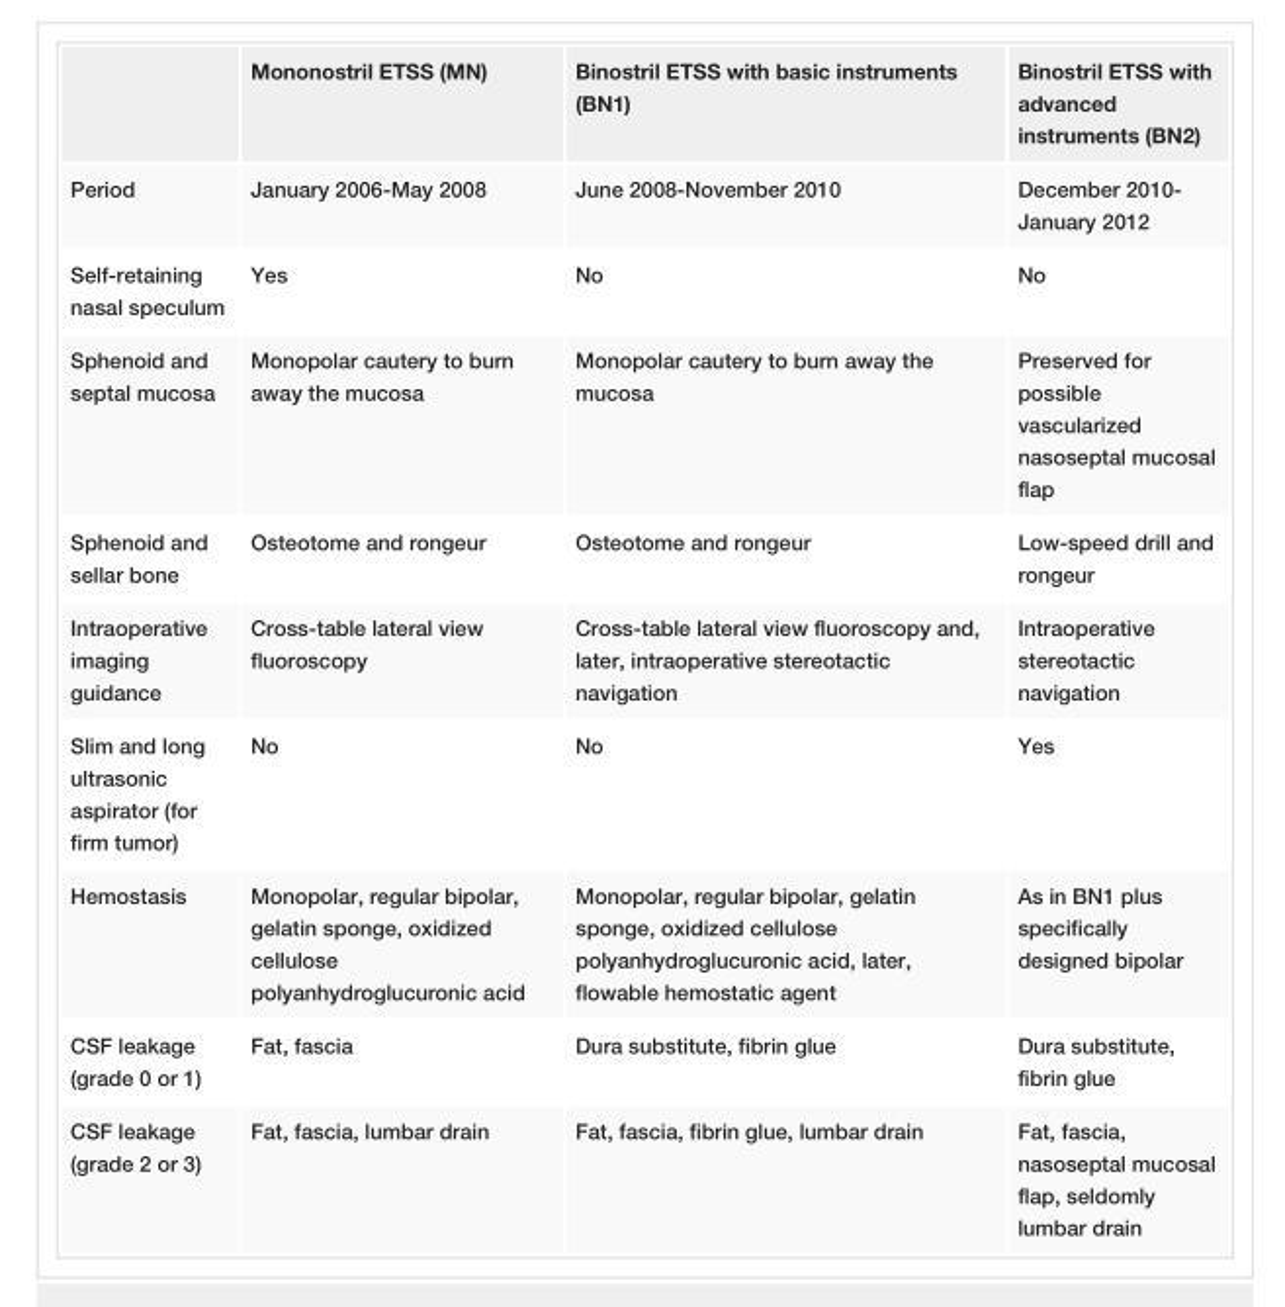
<table><thead><tr><td></td><td>Mononostril ETSS (MN)</td><td>Binostril ETSS with basic instruments (BN1)</td><td>Binostril ETSS with advanced instruments (BN2)</td></tr></thead><tbody><tr><td>Period</td><td>January 2006-May 2008</td><td>June 2008-November 2010</td><td>December 2010- January 2012</td></tr><tr><td>Self-retaining nasal speculum</td><td>Yes</td><td>No</td><td>No</td></tr><tr><td>Sphenoid and septal mucosa</td><td>Monopolar cautery to burn away the mucosa</td><td>Monopolar cautery to burn away the mucosa</td><td>Preserved for possible vascularized nasoseptal mucosal flap</td></tr><tr><td>Sphenoid and sellar bone</td><td>Osteotome and rongeur</td><td>Osteotome and rongeur</td><td>Low-speed drill and rongeur</td></tr><tr><td>Intraoperative imaging guidance</td><td>Cross-table lateral view fluoroscopy</td><td>Cross-table lateral view fluoroscopy and, later, intraoperative stereotactic navigation</td><td>Intraoperative stereotactic navigation</td></tr><tr><td>Slim and long ultrasonic aspirator (for firm tumor)</td><td>No</td><td>No</td><td>Yes</td></tr><tr><td>Hemostasis</td><td>Monopolar, regular bipolar, gelatin sponge, oxidized cellulose polyanhydroglucuronic acid</td><td>Monopolar, regular bipolar, gelatin sponge, oxidized cellulose polyanhydroglucuronic acid, later, flowable hemostatic agent</td><td>As in BN1 plus specifically designed bipolar</td></tr><tr><td>CSF leakage (grade 0 or 1)</td><td>Fat, fascia</td><td>Dura substitute, fibrin glue</td><td>Dura substitute, fibrin glue</td></tr><tr><td>CSF leakage (grade 2 or 3)</td><td>Fat, fascia, lumbar drain</td><td>Fat, fascia, fibrin glue, lumbar drain</td><td>Fat, fascia, nasoseptal mucosal flap, seldomly lumbar drain</td></tr></tbody></table>